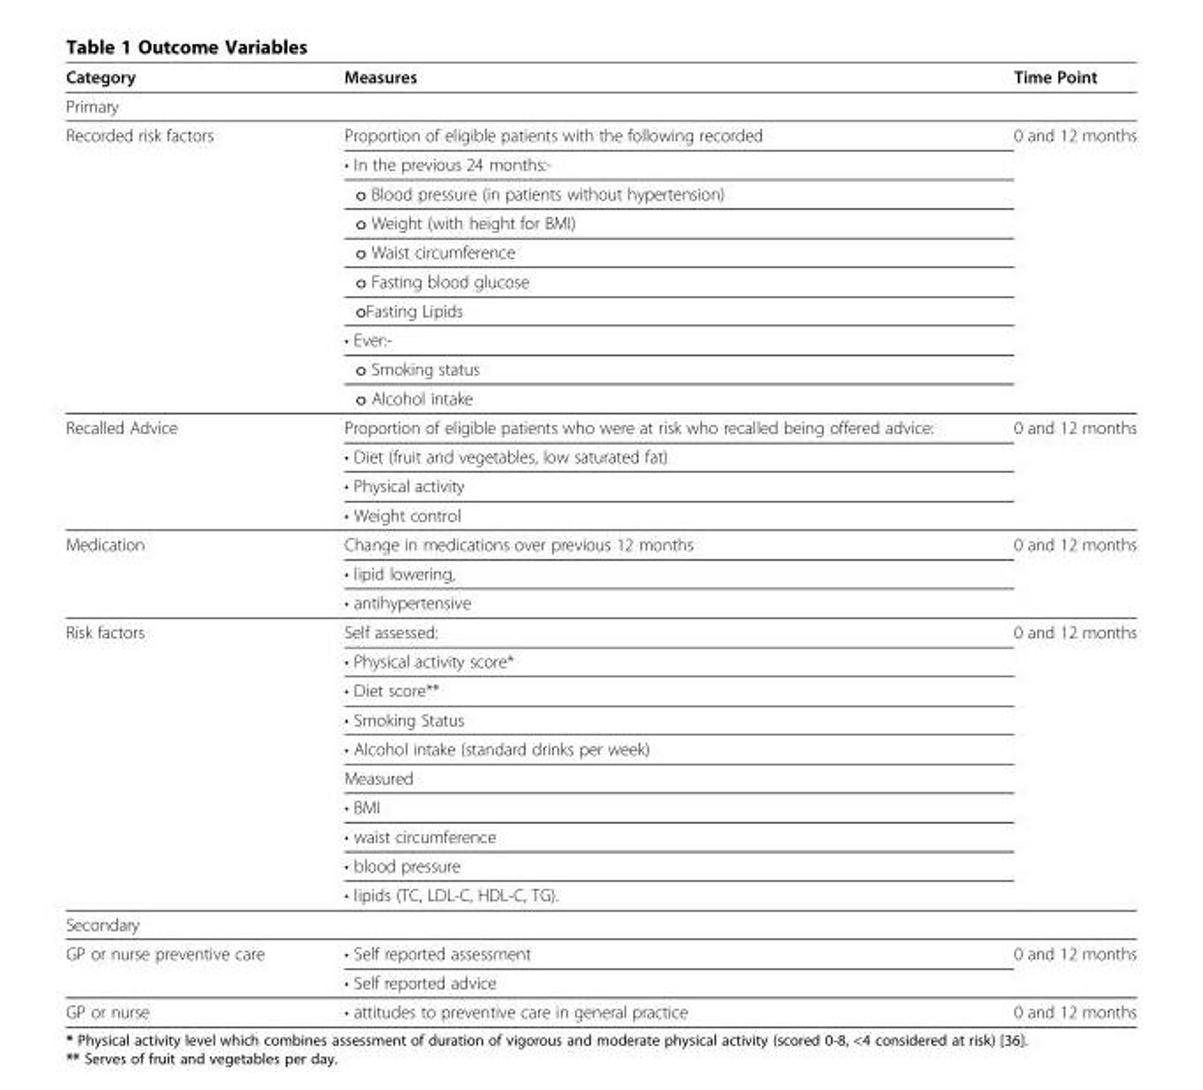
<table><thead><tr><td>Category</td><td>Measures</td><td>Time Point</td></tr></thead><tbody><tr><td colspan="3">Primary</td></tr><tr><td rowspan="10">Recorded risk factors</td><td>Proportion of eligible patients with the following recorded</td><td rowspan="10">0 and 12 months</td></tr><tr><td>• In the previous 24 months:-</td></tr><tr><td>o Blood pressure (in patients without hypertension)</td></tr><tr><td>o Weight (with height for BMI)</td></tr><tr><td>o Waist circumference</td></tr><tr><td>o Fasting blood glucose</td></tr><tr><td>oFasting Lipids</td></tr><tr><td>• Ever:-</td></tr><tr><td>o Smoking status</td></tr><tr><td>o Alcohol intake</td></tr><tr><td rowspan="4">Recalled Advice</td><td>Proportion of eligible patients who were at risk who recalled being offered advice:</td><td rowspan="4">0 and 12 months</td></tr><tr><td>• Diet (fruit and vegetables, low saturated fat)</td></tr><tr><td>• Physical activity</td></tr><tr><td>• Weight control</td></tr><tr><td rowspan="3">Medication</td><td>Change in medications over previous 12 months</td><td rowspan="3">0 and 12 months</td></tr><tr><td>• lipid lowering,</td></tr><tr><td>• antihypertensive</td></tr><tr><td rowspan="10">Risk factors</td><td>Self assessed:</td><td rowspan="10">0 and 12 months</td></tr><tr><td>• Physical activity score*</td></tr><tr><td>• Diet score**</td></tr><tr><td>• Smoking Status</td></tr><tr><td>• Alcohol intake (standard drinks per week)</td></tr><tr><td>Measured</td></tr><tr><td>• BMI</td></tr><tr><td>• waist circumference</td></tr><tr><td>• blood pressure</td></tr><tr><td>• lipids (TC, LDL-C, HDL-C, TG).</td></tr><tr><td colspan="3">Secondary</td></tr><tr><td rowspan="2">GP or nurse preventive care</td><td>• Self reported assessment</td><td rowspan="2">0 and 12 months</td></tr><tr><td>• Self reported advice</td></tr><tr><td>GP or nurse</td><td>• attitudes to preventive care in general practice</td><td>0 and 12 months</td></tr></tbody></table>